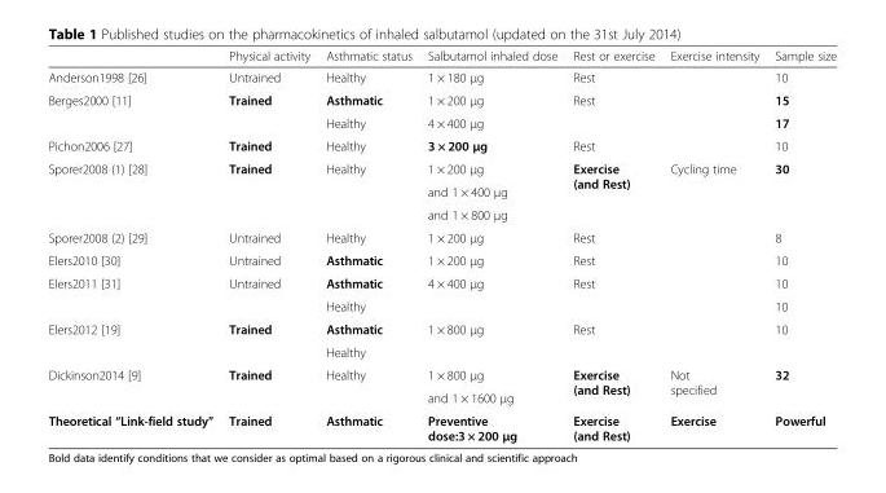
<table><thead><tr><td></td><td>Physical activity</td><td>Asthmatic status</td><td>Salbutamol inhaled dose</td><td>Rest or exercise</td><td>Exercise intensity</td><td>Sample size</td></tr></thead><tbody><tr><td>Anderson1998 [26]</td><td>Untrained</td><td>Healthy</td><td>1 × 180 μg</td><td>Rest</td><td></td><td>10</td></tr><tr><td rowspan="2">Berges2000 [11]</td><td rowspan="2">Trained</td><td>Asthmatic</td><td>1 × 200 μg</td><td rowspan="2">Rest</td><td></td><td>15</td></tr><tr><td>Healthy</td><td>4 × 400 μg</td><td></td><td>17</td></tr><tr><td>Pichon2006 [27]</td><td>Trained</td><td>Healthy</td><td>3 × 200 μg</td><td>Rest</td><td></td><td>10</td></tr><tr><td rowspan="3">Sporer2008 (1) [28]</td><td rowspan="3">Trained</td><td rowspan="3">Healthy</td><td>1 × 200 μg</td><td rowspan="3">Exercise (and Rest)</td><td rowspan="3">Cycling time</td><td rowspan="3">30</td></tr><tr><td>and 1 × 400 μg</td></tr><tr><td>and 1 × 800 μg</td></tr><tr><td>Sporer2008 (2) [29]</td><td>Untrained</td><td>Healthy</td><td>1 × 200 μg</td><td>Rest</td><td></td><td>8</td></tr><tr><td>Elers2010 [30]</td><td>Untrained</td><td>Asthmatic</td><td>1 × 200 μg</td><td>Rest</td><td></td><td>10</td></tr><tr><td rowspan="2">Elers2011 [31]</td><td>Untrained</td><td>Asthmatic</td><td>4 × 400 μg</td><td>Rest</td><td></td><td>10</td></tr><tr><td></td><td>Healthy</td><td></td><td></td><td></td><td>10</td></tr><tr><td rowspan="2">Elers2012 [19]</td><td rowspan="2">Trained</td><td>Asthmatic</td><td rowspan="2">1 × 800 μg</td><td rowspan="2">Rest</td><td rowspan="2"></td><td rowspan="2">10</td></tr><tr><td>Healthy</td></tr><tr><td rowspan="2">Dickinson2014 [9]</td><td rowspan="2">Trained</td><td rowspan="2">Healthy</td><td>1 × 800 μg</td><td rowspan="2">Exercise (and Rest)</td><td rowspan="2">Not specified</td><td rowspan="2">32</td></tr><tr><td>and 1 × 1600 μg</td></tr><tr><td>Theoretical “Link-field study”</td><td>Trained</td><td>Asthmatic</td><td>Preventive dose:3 × 200 μg</td><td>Exercise (and Rest)</td><td>Exercise</td><td>Powerful</td></tr></tbody></table>